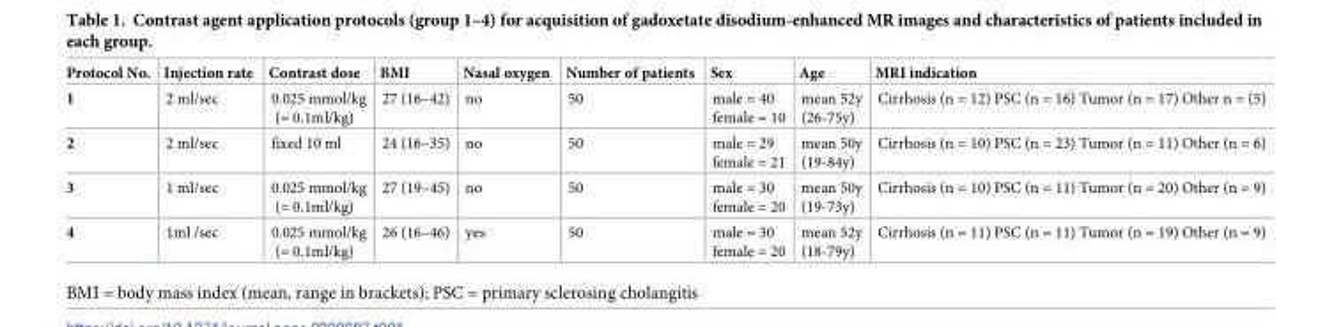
<table><thead><tr><td>Protocol No.</td><td>Injection rate</td><td>Contrast dose</td><td>BMI</td><td>Nasal oxygen</td><td>Number of patients</td><td>Sex</td><td>Age</td><td>MRI indication</td></tr></thead><tbody><tr><td>1</td><td>2 ml/sec</td><td>0.025 mmol/kg (= 0.1ml/kg)</td><td>27 (16–42)</td><td>no</td><td>50</td><td>male = 40 female = 10</td><td>mean 52y (26-75y)</td><td>Cirrhosis (n = 12) PSC (n = 16) Tumor (n = 17) Other n = (5)</td></tr><tr><td>2</td><td>2 ml/sec</td><td>fixed 10 ml</td><td>24 (16–35)</td><td>no</td><td>50</td><td>male = 29 female = 21</td><td>mean 50y (19-84y)</td><td>Cirrhosis (n = 10) PSC (n = 23) Tumor (n = 11) Other (n = 6)</td></tr><tr><td>3</td><td>1 ml/sec</td><td>0.025 mmol/kg (= 0.1ml/kg)</td><td>27 (19–45)</td><td>no</td><td>50</td><td>male = 30 female = 20</td><td>mean 50y (19-73y)</td><td>Cirrhosis (n = 10) PSC (n = 11) Tumor (n = 20) Other (n = 9)</td></tr><tr><td>4</td><td>1ml /sec</td><td>0.025 mmol/kg (= 0.1ml/kg)</td><td>26 (16–46)</td><td>yes</td><td>50</td><td>male = 30 female = 20</td><td>mean 52y (18-79y)</td><td>Cirrhosis (n = 11) PSC (n = 11) Tumor (n = 19) Other (n = 9)</td></tr></tbody></table>